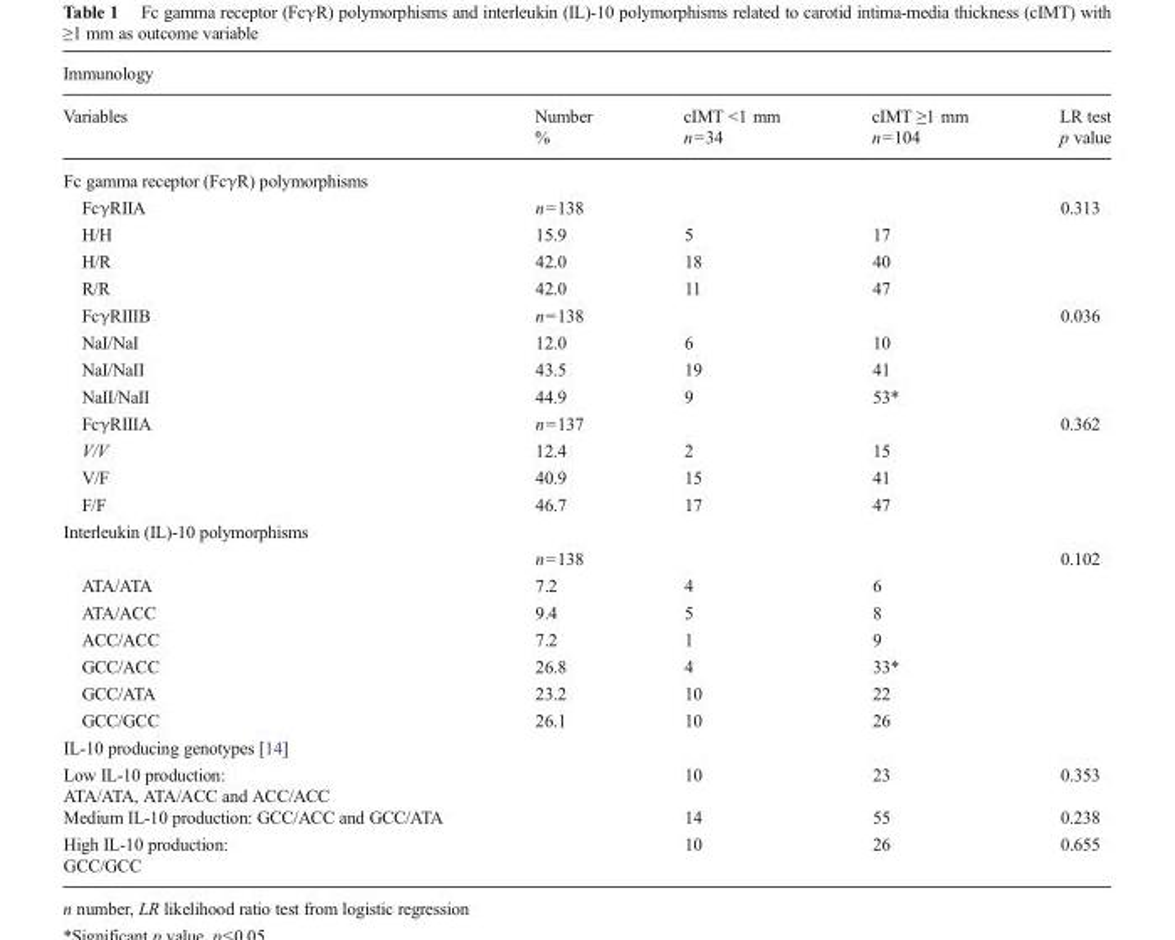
<table><thead><tr><td colspan="5">Immunology</td></tr><tr><td>Variables</td><td>Number %</td><td>cIMT &lt;1 mm n=34</td><td>cIMT ≥1 mm n=104</td><td>LR test p value</td></tr></thead><tbody><tr><td colspan="5">Fc gamma receptor (FcγR) polymorphisms</td></tr><tr><td>FcγRIIA</td><td>n=138</td><td></td><td></td><td>0.313</td></tr><tr><td>H/H</td><td>15.9</td><td>5</td><td>17</td><td></td></tr><tr><td>H/R</td><td>42.0</td><td>18</td><td>40</td><td></td></tr><tr><td>R/R</td><td>42.0</td><td>11</td><td>47</td><td></td></tr><tr><td>FcγRIIIB</td><td>n=138</td><td></td><td></td><td>0.036</td></tr><tr><td>NaI/NaI</td><td>12.0</td><td>6</td><td>10</td><td></td></tr><tr><td>NaI/NaII</td><td>43.5</td><td>19</td><td>41</td><td></td></tr><tr><td>NaII/NaII</td><td>44.9</td><td>9</td><td>53*</td><td></td></tr><tr><td>FcγRIIIA</td><td>n=137</td><td></td><td></td><td>0.362</td></tr><tr><td>V/V</td><td>12.4</td><td>2</td><td>15</td><td></td></tr><tr><td>V/F</td><td>40.9</td><td>15</td><td>41</td><td></td></tr><tr><td>F/F</td><td>46.7</td><td>17</td><td>47</td><td></td></tr><tr><td colspan="5">Interleukin (IL)-10 polymorphisms</td></tr><tr><td></td><td>n=138</td><td></td><td></td><td>0.102</td></tr><tr><td>ATA/ATA</td><td>7.2</td><td>4</td><td>6</td><td></td></tr><tr><td>ATA/ACC</td><td>9.4</td><td>5</td><td>8</td><td></td></tr><tr><td>ACC/ACC</td><td>7.2</td><td>1</td><td>9</td><td></td></tr><tr><td>GCC/ACC</td><td>26.8</td><td>4</td><td>33*</td><td></td></tr><tr><td>GCC/ATA</td><td>23.2</td><td>10</td><td>22</td><td></td></tr><tr><td>GCC/GCC</td><td>26.1</td><td>10</td><td>26</td><td></td></tr><tr><td colspan="5">IL-10 producing genotypes [14]</td></tr><tr><td>Low IL-10 production: ATA/ATA, ATA/ACC and ACC/ACC</td><td></td><td>10</td><td>23</td><td>0.353</td></tr><tr><td>Medium IL-10 production: GCC/ACC and GCC/ATA</td><td></td><td>14</td><td>55</td><td>0.238</td></tr><tr><td>High IL-10 production: GCC/GCC</td><td></td><td>10</td><td>26</td><td>0.655</td></tr></tbody></table>